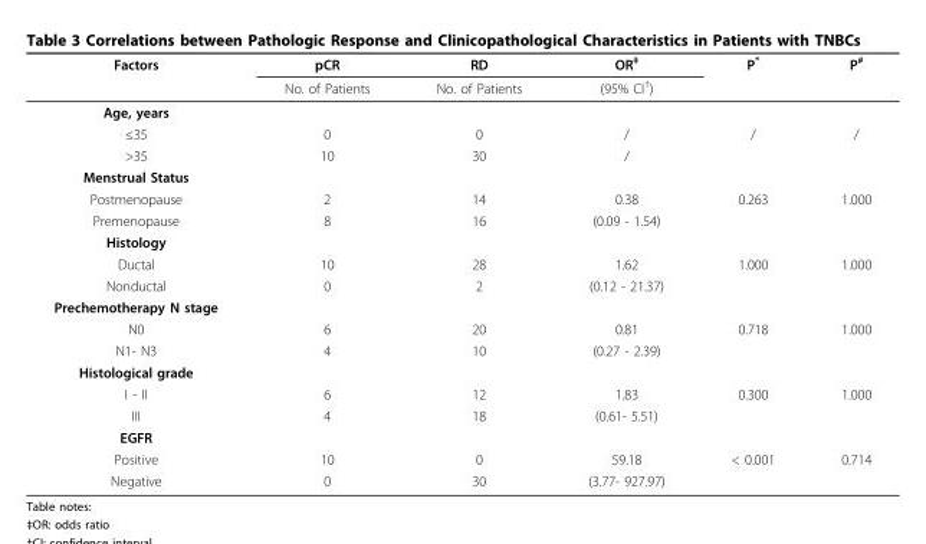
<table><thead><tr><td rowspan="2">Factors</td><td rowspan="2">pCR No. of Patients</td><td rowspan="2">RD No. of Patients</td><td rowspan="2">OR<sup>‡</sup> (95% CI<sup>†</sup>)</td><td rowspan="2">P*</td><td rowspan="2">P<sup>#</sup></td></tr><tr></tr></thead><tbody><tr><td colspan="6">Age, years</td></tr><tr><td>≤35</td><td>0</td><td>0</td><td>/</td><td>/</td><td>/</td></tr><tr><td>&gt;35</td><td>10</td><td>30</td><td>/</td><td></td><td></td></tr><tr><td colspan="6">Menstrual Status</td></tr><tr><td>Postmenopause</td><td>2</td><td>14</td><td>0.38</td><td>0.263</td><td>1.000</td></tr><tr><td>Premenopause</td><td>8</td><td>16</td><td>(0.09 - 1.54)</td><td></td><td></td></tr><tr><td colspan="6">Histology</td></tr><tr><td>Ductal</td><td>10</td><td>28</td><td>1.62</td><td>1.000</td><td>1.000</td></tr><tr><td>Nonductal</td><td>0</td><td>2</td><td>(0.12 - 21.37)</td><td></td><td></td></tr><tr><td colspan="6">Prechemotherapy N stage</td></tr><tr><td>N0</td><td>6</td><td>20</td><td>0.81</td><td>0.718</td><td>1.000</td></tr><tr><td>N1- N3</td><td>4</td><td>10</td><td>(0.27 - 2.39)</td><td></td><td></td></tr><tr><td colspan="6">Histological grade</td></tr><tr><td>I - II</td><td>6</td><td>12</td><td>1.83</td><td>0.300</td><td>1.000</td></tr><tr><td>III</td><td>4</td><td>18</td><td>(0.61- 5.51)</td><td></td><td></td></tr><tr><td colspan="6">EGFR</td></tr><tr><td>Positive</td><td>10</td><td>0</td><td>59.18</td><td>&lt; 0.001</td><td>0.714</td></tr><tr><td>Negative</td><td>0</td><td>30</td><td>(3.77- 927.97)</td><td></td><td></td></tr></tbody></table>